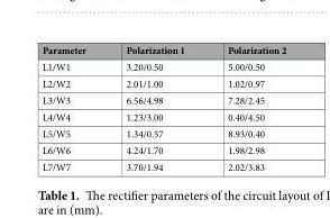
<table><thead><tr><td>Parameter</td><td>Polarization 1</td><td>Polarization 2</td></tr></thead><tbody><tr><td>L1/W1</td><td>3.20/0.50</td><td>5.00/0.50</td></tr><tr><td>L2/W2</td><td>2.01/1.00</td><td>1.02/0.97</td></tr><tr><td>L3/W3</td><td>6.56/4.98</td><td>7.28/2.45</td></tr><tr><td>L4/W4</td><td>1.23/3.00</td><td>0.40/4.50</td></tr><tr><td>L5/W5</td><td>1.34/0.57</td><td>8.93/0.40</td></tr><tr><td>L6/W6</td><td>4.24/1.70</td><td>1.98/2.98</td></tr><tr><td>L7/W7</td><td>3.70/1.94</td><td>2.02/3.83</td></tr></tbody></table>